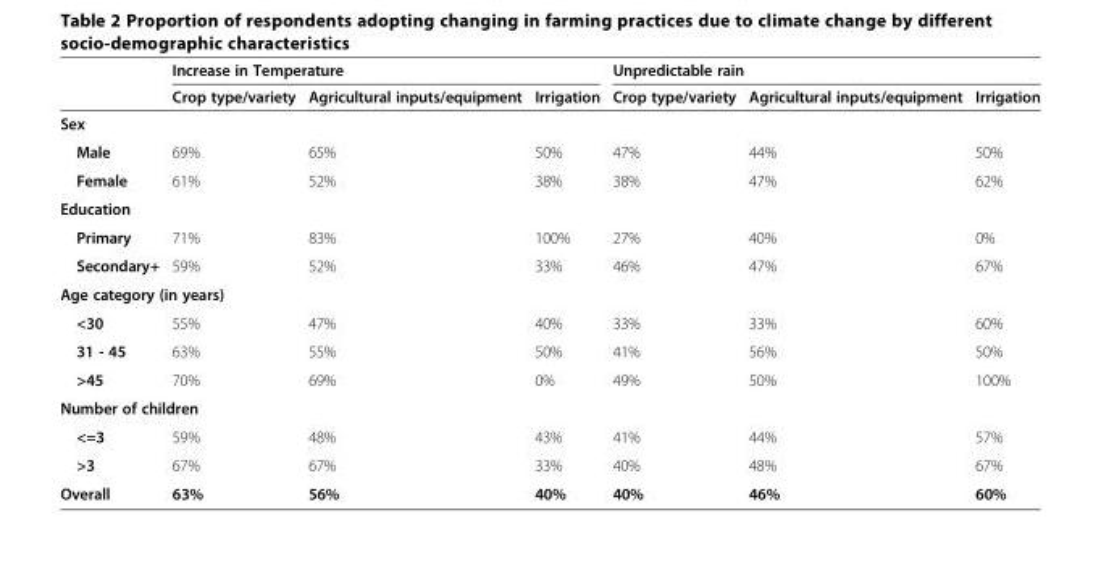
<table><thead><tr><td rowspan="2"></td><td colspan="3">Increase in Temperature</td><td colspan="3">Unpredictable rain</td></tr><tr><td>Crop type/variety</td><td>Agricultural inputs/equipment</td><td>Irrigation</td><td>Crop type/variety</td><td>Agricultural inputs/equipment</td><td>Irrigation</td></tr></thead><tbody><tr><td colspan="7">Sex</td></tr><tr><td>Male</td><td>69%</td><td>65%</td><td>50%</td><td>47%</td><td>44%</td><td>50%</td></tr><tr><td>Female</td><td>61%</td><td>52%</td><td>38%</td><td>38%</td><td>47%</td><td>62%</td></tr><tr><td colspan="7">Education</td></tr><tr><td>Primary</td><td>71%</td><td>83%</td><td>100%</td><td>27%</td><td>40%</td><td>0%</td></tr><tr><td>Secondary+</td><td>59%</td><td>52%</td><td>33%</td><td>46%</td><td>47%</td><td>67%</td></tr><tr><td colspan="7">Age category (in years)</td></tr><tr><td>&lt;30</td><td>55%</td><td>47%</td><td>40%</td><td>33%</td><td>33%</td><td>60%</td></tr><tr><td>31 - 45</td><td>63%</td><td>55%</td><td>50%</td><td>41%</td><td>56%</td><td>50%</td></tr><tr><td>&gt;45</td><td>70%</td><td>69%</td><td>0%</td><td>49%</td><td>50%</td><td>100%</td></tr><tr><td colspan="7">Number of children</td></tr><tr><td>&lt;=3</td><td>59%</td><td>48%</td><td>43%</td><td>41%</td><td>44%</td><td>57%</td></tr><tr><td>&gt;3</td><td>67%</td><td>67%</td><td>33%</td><td>40%</td><td>48%</td><td>67%</td></tr><tr><td>Overall</td><td>63%</td><td>56%</td><td>40%</td><td>40%</td><td>46%</td><td>60%</td></tr></tbody></table>